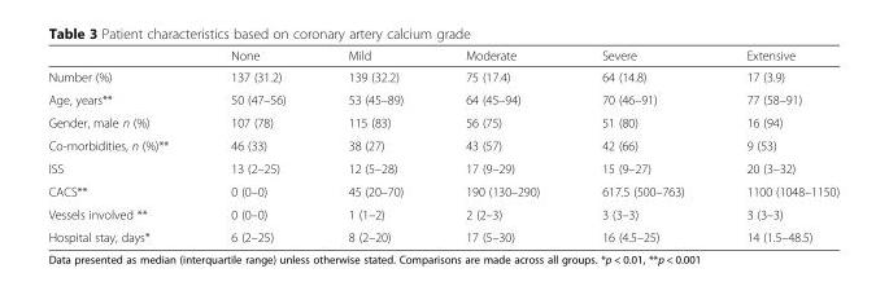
<table><thead><tr><td></td><td>None</td><td>Mild</td><td>Moderate</td><td>Severe</td><td>Extensive</td></tr></thead><tbody><tr><td>Number (%)</td><td>137 (31.2)</td><td>139 (32.2)</td><td>75 (17.4)</td><td>64 (14.8)</td><td>17 (3.9)</td></tr><tr><td>Age, years**</td><td>50 (47–56)</td><td>53 (45–89)</td><td>64 (45–94)</td><td>70 (46–91)</td><td>77 (58–91)</td></tr><tr><td>Gender, male n (%)</td><td>107 (78)</td><td>115 (83)</td><td>56 (75)</td><td>51 (80)</td><td>16 (94)</td></tr><tr><td>Co-morbidities, n (%)**</td><td>46 (33)</td><td>38 (27)</td><td>43 (57)</td><td>42 (66)</td><td>9 (53)</td></tr><tr><td>ISS</td><td>13 (2–25)</td><td>12 (5–28)</td><td>17 (9–29)</td><td>15 (9–27)</td><td>20 (3–32)</td></tr><tr><td>CACS**</td><td>0 (0–0)</td><td>45 (20–70)</td><td>190 (130–290)</td><td>617.5 (500–763)</td><td>1100 (1048–1150)</td></tr><tr><td>Vessels involved **</td><td>0 (0–0)</td><td>1 (1–2)</td><td>2 (2–3)</td><td>3 (3–3)</td><td>3 (3–3)</td></tr><tr><td>Hospital stay, days*</td><td>6 (2–25)</td><td>8 (2–20)</td><td>17 (5–30)</td><td>16 (4.5–25)</td><td>14 (1.5–48.5)</td></tr></tbody></table>